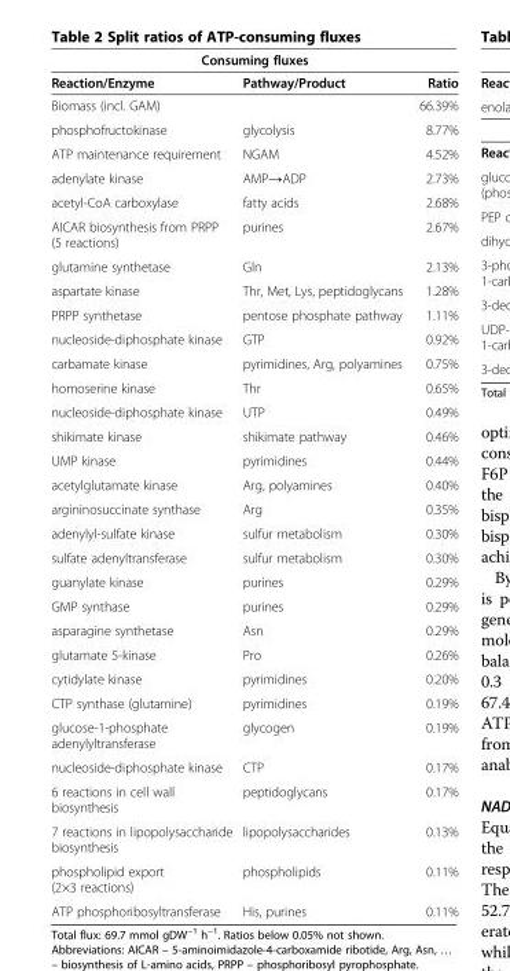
<table><thead><tr><td colspan="3">Consuming fluxes</td></tr><tr><td>Reaction/Enzyme</td><td>Pathway/Product</td><td>Ratio</td></tr></thead><tbody><tr><td>Biomass (incl. GAM)</td><td></td><td>66.39%</td></tr><tr><td>phosphofructokinase</td><td>glycolysis</td><td>8.77%</td></tr><tr><td>ATP maintenance requirement</td><td>NGAM</td><td>4.52%</td></tr><tr><td>adenylate kinase</td><td>AMP→ADP</td><td>2.73%</td></tr><tr><td>acetyl-CoA carboxylase</td><td>fatty acids</td><td>2.68%</td></tr><tr><td>AICAR biosynthesis from PRPP (5 reactions)</td><td>purines</td><td>2.67%</td></tr><tr><td>glutamine synthetase</td><td>Gln</td><td>2.13%</td></tr><tr><td>aspartate kinase</td><td>Thr, Met, Lys, peptidoglycans</td><td>1.28%</td></tr><tr><td>PRPP synthetase</td><td>pentose phosphate pathway</td><td>1.11%</td></tr><tr><td>nucleoside-diphosphate kinase</td><td>GTP</td><td>0.92%</td></tr><tr><td>carbamate kinase</td><td>pyrimidines, Arg, polyamines</td><td>0.75%</td></tr><tr><td>homoserine kinase</td><td>Thr</td><td>0.65%</td></tr><tr><td>nucleoside-diphosphate kinase</td><td>UTP</td><td>0.49%</td></tr><tr><td>shikimate kinase</td><td>shikimate pathway</td><td>0.46%</td></tr><tr><td>UMP kinase</td><td>pyrimidines</td><td>0.44%</td></tr><tr><td>acetylglutamate kinase</td><td>Arg, polyamines</td><td>0.40%</td></tr><tr><td>argininosuccinate synthase</td><td>Arg</td><td>0.35%</td></tr><tr><td>adenylyl-sulfate kinase</td><td>sulfur metabolism</td><td>0.30%</td></tr><tr><td>sulfate adenyltransferase</td><td>sulfur metabolism</td><td>0.30%</td></tr><tr><td>guanylate kinase</td><td>purines</td><td>0.29%</td></tr><tr><td>GMP synthase</td><td>purines</td><td>0.29%</td></tr><tr><td>asparagine synthetase</td><td>Asn</td><td>0.29%</td></tr><tr><td>glutamate 5-kinase</td><td>Pro</td><td>0.26%</td></tr><tr><td>cytidylate kinase</td><td>pyrimidines</td><td>0.20%</td></tr><tr><td>CTP synthase (glutamine)</td><td>pyrimidines</td><td>0.19%</td></tr><tr><td>glucose-1-phosphate adenylyltransferase</td><td>glycogen</td><td>0.19%</td></tr><tr><td>nucleoside-diphosphate kinase</td><td>CTP</td><td>0.17%</td></tr><tr><td>6 reactions in cell wall biosynthesis</td><td>peptidoglycans</td><td>0.17%</td></tr><tr><td>7 reactions in lipopolysaccharide biosynthesis</td><td>lipopolysaccharides</td><td>0.13%</td></tr><tr><td>phospholipid export (2×3 reactions)</td><td>phospholipids</td><td>0.11%</td></tr><tr><td>ATP phosphoribosyltransferase</td><td>His, purines</td><td>0.11%</td></tr></tbody></table>